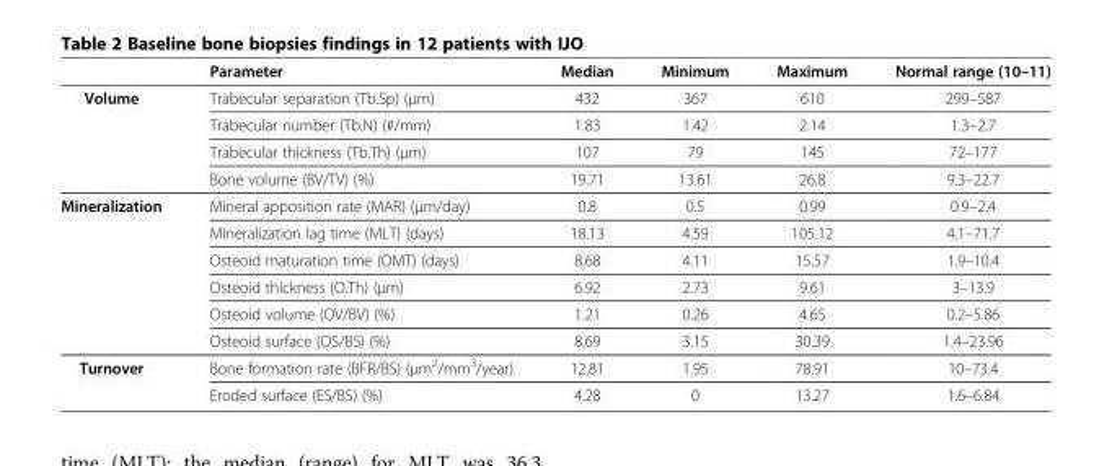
<table><thead><tr><td></td><td>Parameter</td><td>Median</td><td>Minimum</td><td>Maximum</td><td>Normal range (10–11)</td></tr></thead><tbody><tr><td rowspan="4">Volume</td><td>Trabecular separation (Tb.Sp) (μm)</td><td>432</td><td>367</td><td>610</td><td>299–587</td></tr><tr><td>Trabecular number (Tb.N) (#/mm)</td><td>1.83</td><td>1.42</td><td>2.14</td><td>1.3–2.7</td></tr><tr><td>Trabecular thickness (Tb.Th) (μm)</td><td>107</td><td>79</td><td>145</td><td>72–177</td></tr><tr><td>Bone volume (BV/TV) (%)</td><td>19.71</td><td>13.61</td><td>26.8</td><td>9.3–22.7</td></tr><tr><td rowspan="6">Mineralization</td><td>Mineral apposition rate (MAR) (μm/day)</td><td>0.8</td><td>0.5</td><td>0.99</td><td>0.9–2.4</td></tr><tr><td>Mineralization lag time (MLT) (days)</td><td>18.13</td><td>4.59</td><td>105.12</td><td>4.1–71.7</td></tr><tr><td>Osteoid maturation time (OMT) (days)</td><td>8.68</td><td>4.11</td><td>15.57</td><td>1.9–10.4</td></tr><tr><td>Osteoid thickness (O.Th) (μm)</td><td>6.92</td><td>2.73</td><td>9.61</td><td>3–13.9</td></tr><tr><td>Osteoid volume (OV/BV) (%)</td><td>1.21</td><td>0.26</td><td>4.65</td><td>0.2–5.86</td></tr><tr><td>Osteoid surface (OS/BS) (%)</td><td>8.69</td><td>3.15</td><td>30.39</td><td>1.4–23.96</td></tr><tr><td rowspan="2">Turnover</td><td>Bone formation rate (BFR/BS) (μm<sup>2</sup>/mm<sup>3</sup>/year)</td><td>12.81</td><td>1.95</td><td>78.91</td><td>10–73.4</td></tr><tr><td>Eroded surface (ES/BS) (%)</td><td>4.28</td><td>0</td><td>13.27</td><td>1.6–6.84</td></tr></tbody></table>